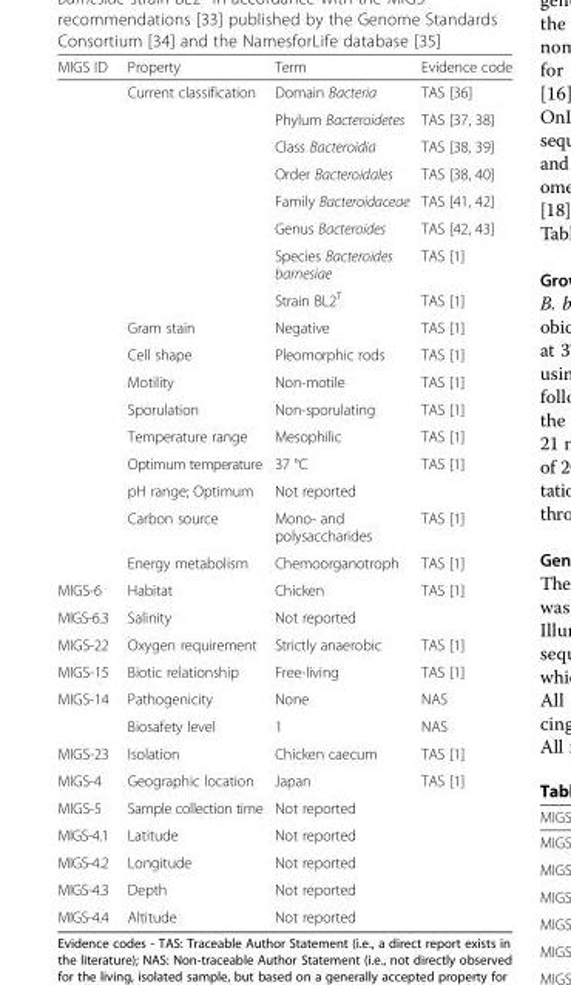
<table><thead><tr><td>MIGS ID</td><td>Property</td><td>Term</td><td>Evidence code</td></tr></thead><tbody><tr><td></td><td>Current classification</td><td>Domain Bacteria</td><td>TAS [36]</td></tr><tr><td></td><td></td><td>Phylum Bacteroidetes</td><td>TAS [37, 38]</td></tr><tr><td></td><td></td><td>Class Bacteroidia</td><td>TAS [38, 39]</td></tr><tr><td></td><td></td><td>Order Bacteroidales</td><td>TAS [38, 40]</td></tr><tr><td></td><td></td><td>Family Bacteroidaceae</td><td>TAS [41, 42]</td></tr><tr><td></td><td></td><td>Genus Bacteroides</td><td>TAS [42, 43]</td></tr><tr><td></td><td></td><td>Species Bacteroides barnesiae</td><td>TAS [1]</td></tr><tr><td></td><td></td><td>Strain BL2<sup>T</sup></td><td>TAS [1]</td></tr><tr><td></td><td>Gram stain</td><td>Negative</td><td>TAS [1]</td></tr><tr><td></td><td>Cell shape</td><td>Pleomorphic rods</td><td>TAS [1]</td></tr><tr><td></td><td>Motility</td><td>Non-motile</td><td>TAS [1]</td></tr><tr><td></td><td>Sporulation</td><td>Non-sporulating</td><td>TAS [1]</td></tr><tr><td></td><td>Temperature range</td><td>Mesophilic</td><td>TAS [1]</td></tr><tr><td></td><td>Optimum temperature</td><td>37 °C</td><td>TAS [1]</td></tr><tr><td></td><td>pH range; Optimum</td><td>Not reported</td><td></td></tr><tr><td></td><td>Carbon source</td><td>Mono- and polysaccharides</td><td>TAS [1]</td></tr><tr><td></td><td>Energy metabolism</td><td>Chemoorganotroph</td><td>TAS [1]</td></tr><tr><td>MIGS-6</td><td>Habitat</td><td>Chicken</td><td>TAS [1]</td></tr><tr><td>MIGS-6.3</td><td>Salinity</td><td>Not reported</td><td></td></tr><tr><td>MIGS-22</td><td>Oxygen requirement</td><td>Strictly anaerobic</td><td>TAS [1]</td></tr><tr><td>MIGS-15</td><td>Biotic relationship</td><td>Free-living</td><td>TAS [1]</td></tr><tr><td rowspan="2">MIGS-14</td><td>Pathogenicity</td><td>None</td><td>NAS</td></tr><tr><td>Biosafety level</td><td>1</td><td>NAS</td></tr><tr><td>MIGS-23</td><td>Isolation</td><td>Chicken caecum</td><td>TAS [1]</td></tr><tr><td>MIGS-4</td><td>Geographic location</td><td>Japan</td><td>TAS [1]</td></tr><tr><td>MIGS-5</td><td>Sample collection time</td><td>Not reported</td><td></td></tr><tr><td>MIGS-4.1</td><td>Latitude</td><td>Not reported</td><td></td></tr><tr><td>MIGS-4.2</td><td>Longitude</td><td>Not reported</td><td></td></tr><tr><td>MIGS-4.3</td><td>Depth</td><td>Not reported</td><td></td></tr><tr><td>MIGS-4.4</td><td>Altitude</td><td>Not reported</td><td></td></tr></tbody></table>